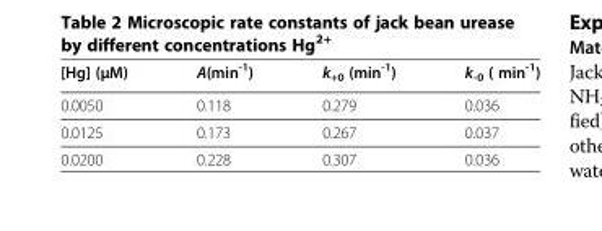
<table><thead><tr><td>[Hg] (μM)</td><td>A(min<sup>-1</sup>)</td><td>k<sub>+0</sub> (min<sup>-1</sup>)</td><td>k<sub>-0</sub> ( min<sup>-1</sup>)</td></tr></thead><tbody><tr><td>0.0050</td><td>0.118</td><td>0.279</td><td>0.036</td></tr><tr><td>0.0125</td><td>0.173</td><td>0.267</td><td>0.037</td></tr><tr><td>0.0200</td><td>0.228</td><td>0.307</td><td>0.036</td></tr></tbody></table>